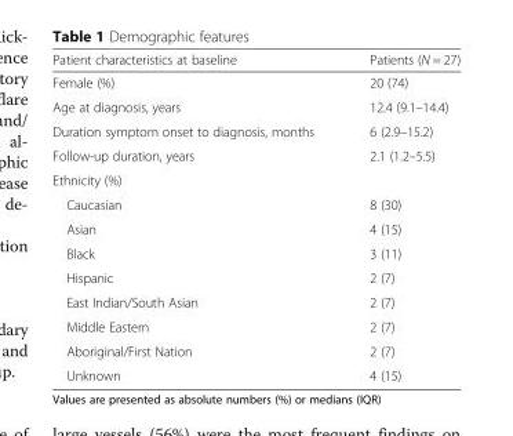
<table><thead><tr><td>Patient characteristics at baseline</td><td>Patients (N = 27)</td></tr></thead><tbody><tr><td>Female (%)</td><td>20 (74)</td></tr><tr><td>Age at diagnosis, years</td><td>12.4 (9.1–14.4)</td></tr><tr><td>Duration symptom onset to diagnosis, months</td><td>6 (2.9–15.2)</td></tr><tr><td>Follow-up duration, years</td><td>2.1 (1.2–5.5)</td></tr><tr><td colspan="2">Ethnicity (%)</td></tr><tr><td>Caucasian</td><td>8 (30)</td></tr><tr><td>Asian</td><td>4 (15)</td></tr><tr><td>Black</td><td>3 (11)</td></tr><tr><td>Hispanic</td><td>2 (7)</td></tr><tr><td>East Indian/South Asian</td><td>2 (7)</td></tr><tr><td>Middle Eastern</td><td>2 (7)</td></tr><tr><td>Aboriginal/First Nation</td><td>2 (7)</td></tr><tr><td>Unknown</td><td>4 (15)</td></tr></tbody></table>